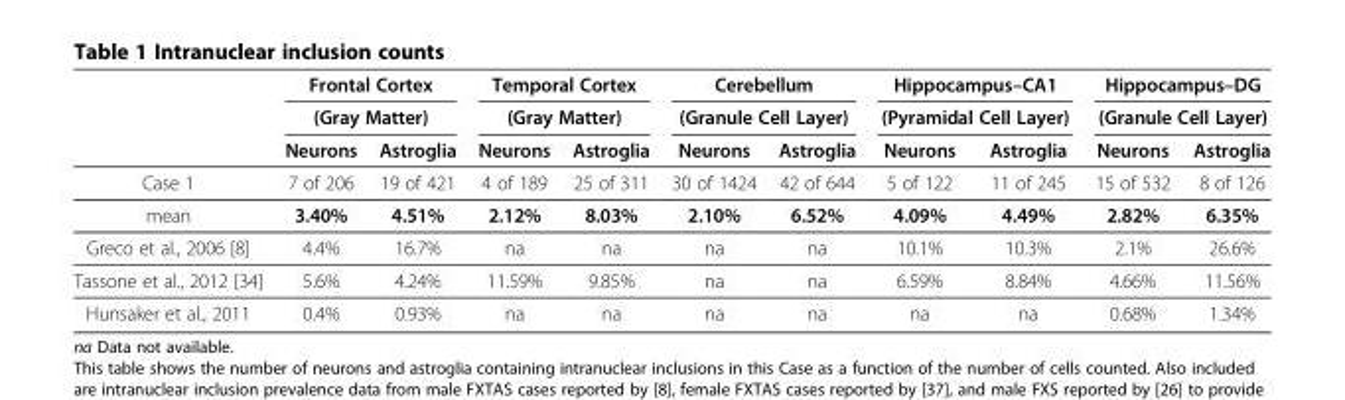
<table><thead><tr><td rowspan="3"></td><td rowspan="2" colspan="2">Frontal Cortex (Gray Matter)</td><td rowspan="2" colspan="2">Temporal Cortex (Gray Matter)</td><td rowspan="2" colspan="2">Cerebellum (Granule Cell Layer)</td><td rowspan="2" colspan="2">Hippocampus–CA1 (Pyramidal Cell Layer)</td><td rowspan="2" colspan="2">Hippocampus–DG (Granule Cell Layer)</td></tr><tr></tr><tr><td>Neurons</td><td>Astroglia</td><td>Neurons</td><td>Astroglia</td><td>Neurons</td><td>Astroglia</td><td>Neurons</td><td>Astroglia</td><td>Neurons</td><td>Astroglia</td></tr></thead><tbody><tr><td>Case 1</td><td>7 of 206</td><td>19 of 421</td><td>4 of 189</td><td>25 of 311</td><td>30 of 1424</td><td>42 of 644</td><td>5 of 122</td><td>11 of 245</td><td>15 of 532</td><td>8 of 126</td></tr><tr><td>mean</td><td>3.40%</td><td>4.51%</td><td>2.12%</td><td>8.03%</td><td>2.10%</td><td>6.52%</td><td>4.09%</td><td>4.49%</td><td>2.82%</td><td>6.35%</td></tr><tr><td>Greco et al., 2006 [8]</td><td>4.4%</td><td>16.7%</td><td>na</td><td>na</td><td>na</td><td>na</td><td>10.1%</td><td>10.3%</td><td>2.1%</td><td>26.6%</td></tr><tr><td>Tassone et al., 2012 [34]</td><td>5.6%</td><td>4.24%</td><td>11.59%</td><td>9.85%</td><td>na</td><td>na</td><td>6.59%</td><td>8.84%</td><td>4.66%</td><td>11.56%</td></tr><tr><td>Hunsaker et al., 2011</td><td>0.4%</td><td>0.93%</td><td>na</td><td>na</td><td>na</td><td>na</td><td>na</td><td>na</td><td>0.68%</td><td>1.34%</td></tr></tbody></table>